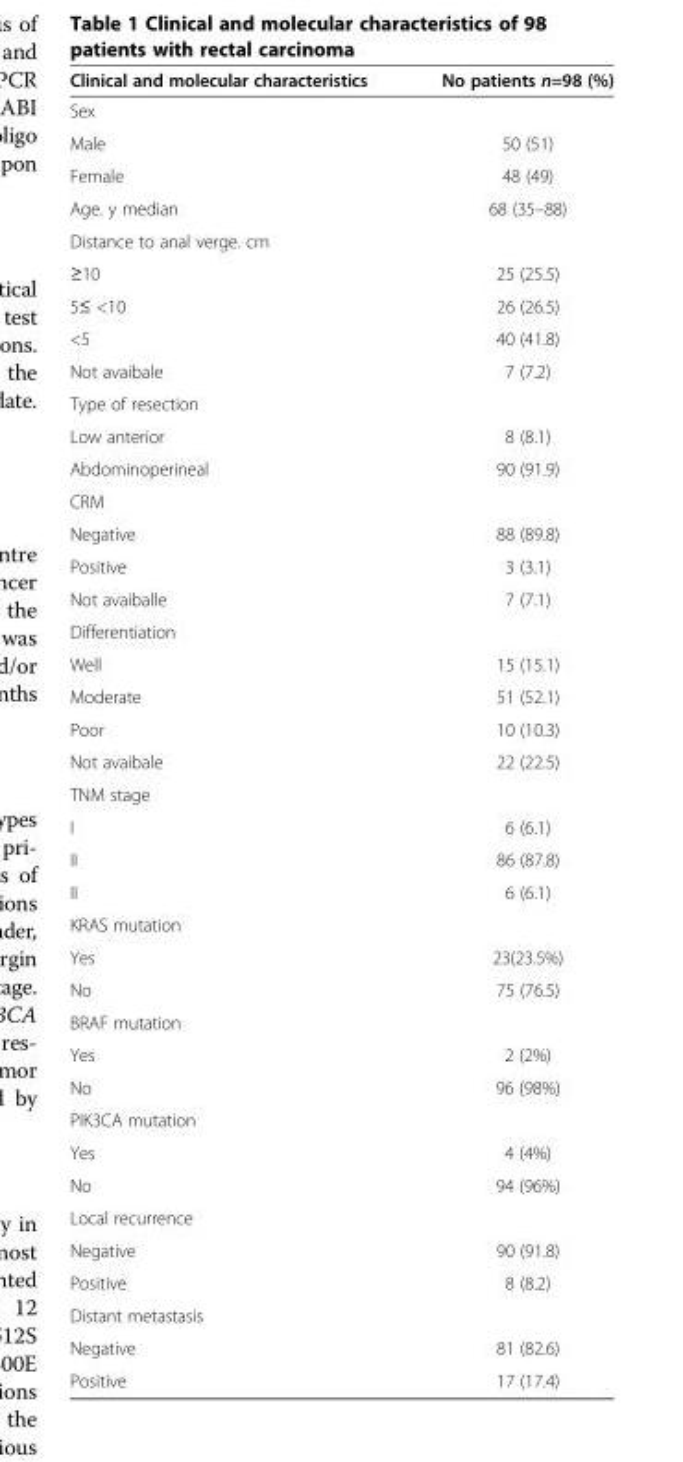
<table><thead><tr><td>Clinical and molecular characteristics</td><td>No patients n=98 (%)</td></tr></thead><tbody><tr><td colspan="2">Sex</td></tr><tr><td>Male</td><td>50 (51)</td></tr><tr><td>Female</td><td>48 (49)</td></tr><tr><td>Age. y median</td><td>68 (35–88)</td></tr><tr><td colspan="2">Distance to anal verge. cm</td></tr><tr><td>≥10</td><td>25 (25.5)</td></tr><tr><td>5≤ &lt;10</td><td>26 (26.5)</td></tr><tr><td>&lt;5</td><td>40 (41.8)</td></tr><tr><td>Not avaibale</td><td>7 (7.2)</td></tr><tr><td colspan="2">Type of resection</td></tr><tr><td>Low anterior</td><td>8 (8.1)</td></tr><tr><td>Abdominoperineal</td><td>90 (91.9)</td></tr><tr><td colspan="2">CRM</td></tr><tr><td>Negative</td><td>88 (89.8)</td></tr><tr><td>Positive</td><td>3 (3.1)</td></tr><tr><td>Not avaiballe</td><td>7 (7.1)</td></tr><tr><td colspan="2">Differentiation</td></tr><tr><td>Well</td><td>15 (15.1)</td></tr><tr><td>Moderate</td><td>51 (52.1)</td></tr><tr><td>Poor</td><td>10 (10.3)</td></tr><tr><td>Not avaibale</td><td>22 (22.5)</td></tr><tr><td colspan="2">TNM stage</td></tr><tr><td>I</td><td>6 (6.1)</td></tr><tr><td>II</td><td>86 (87.8)</td></tr><tr><td>II</td><td>6 (6.1)</td></tr><tr><td colspan="2">KRAS mutation</td></tr><tr><td>Yes</td><td>23(23.5%)</td></tr><tr><td>No</td><td>75 (76.5)</td></tr><tr><td colspan="2">BRAF mutation</td></tr><tr><td>Yes</td><td>2 (2%)</td></tr><tr><td>No</td><td>96 (98%)</td></tr><tr><td colspan="2">PIK3CA mutation</td></tr><tr><td>Yes</td><td>4 (4%)</td></tr><tr><td>No</td><td>94 (96%)</td></tr><tr><td colspan="2">Local recurrence</td></tr><tr><td>Negative</td><td>90 (91.8)</td></tr><tr><td>Positive</td><td>8 (8.2)</td></tr><tr><td colspan="2">Distant metastasis</td></tr><tr><td>Negative</td><td>81 (82.6)</td></tr><tr><td>Positive</td><td>17 (17.4)</td></tr></tbody></table>